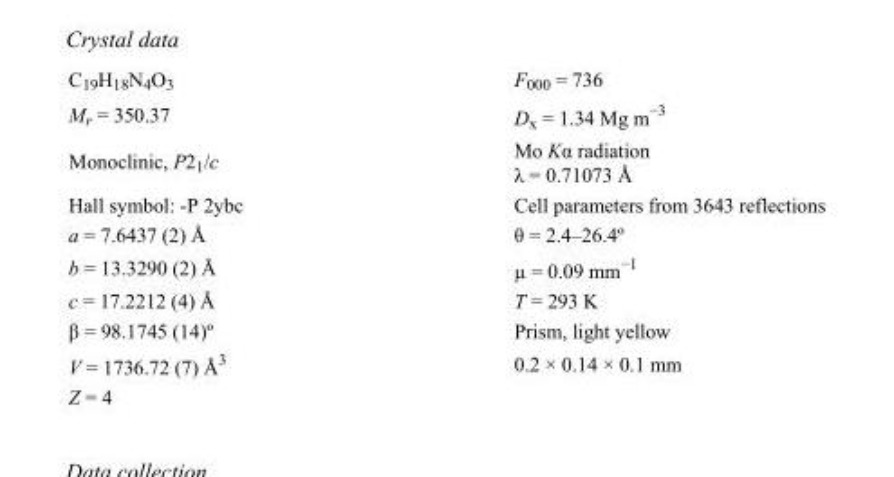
<table><tbody><tr><td>C<sub>19</sub>H<sub>18</sub>N<sub>4</sub>O<sub>3</sub></td><td>F000 = 736</td></tr><tr><td>M<sub>r</sub> = 350.37</td><td>D<sub>x</sub> = 1.34 Mg m<sup>−3</sup></td></tr><tr><td>Monoclinic, P2<sub>1</sub>/c</td><td>Mo Kα radiation λ = 0.71073 Å</td></tr><tr><td>Hall symbol: -P 2ybc</td><td>Cell parameters from 3643 reflections</td></tr><tr><td>a = 7.6437 (2) Å</td><td>θ = 2.4–26.4º</td></tr><tr><td>b = 13.3290 (2) Å</td><td>µ = 0.09 mm<sup>−1</sup></td></tr><tr><td>c = 17.2212 (4) Å</td><td>T = 293 K</td></tr><tr><td>β = 98.1745 (14)º</td><td>Prism, light yellow</td></tr><tr><td>V = 1736.72 (7) Å<sup>3</sup></td><td>0.2 × 0.14 × 0.1 mm</td></tr><tr><td>Z = 4</td><td></td></tr></tbody></table>